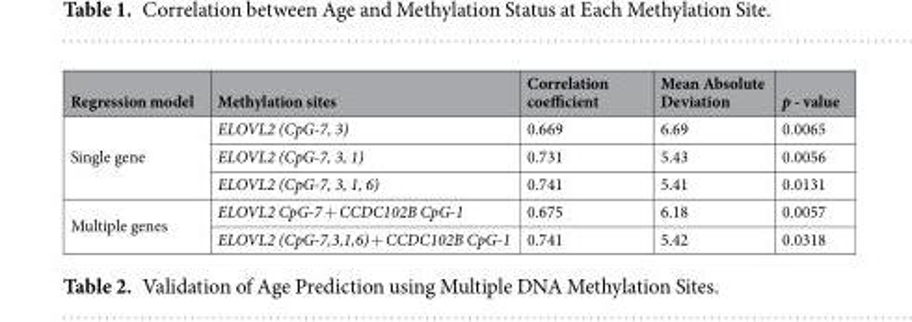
<table><thead><tr><td>Regression model</td><td>Methylation sites</td><td>Correlation coefficient</td><td>Mean Absolute Deviation</td><td>p - value</td></tr></thead><tbody><tr><td rowspan="3">Single gene</td><td>ELOVL2 (CpG-7, 3)</td><td>0.669</td><td>6.69</td><td>0.0065</td></tr><tr><td>ELOVL2 (CpG-7, 3, 1)</td><td>0.731</td><td>5.43</td><td>0.0056</td></tr><tr><td>ELOVL2 (CpG-7, 3, 1, 6)</td><td>0.741</td><td>5.41</td><td>0.0131</td></tr><tr><td rowspan="2">Multiple genes</td><td>ELOVL2 CpG-7 + CCDC102B CpG-1</td><td>0.675</td><td>6.18</td><td>0.0057</td></tr><tr><td>ELOVL2 (CpG-7,3,1,6) + CCDC102B CpG-1</td><td>0.741</td><td>5.42</td><td>0.0318</td></tr></tbody></table>